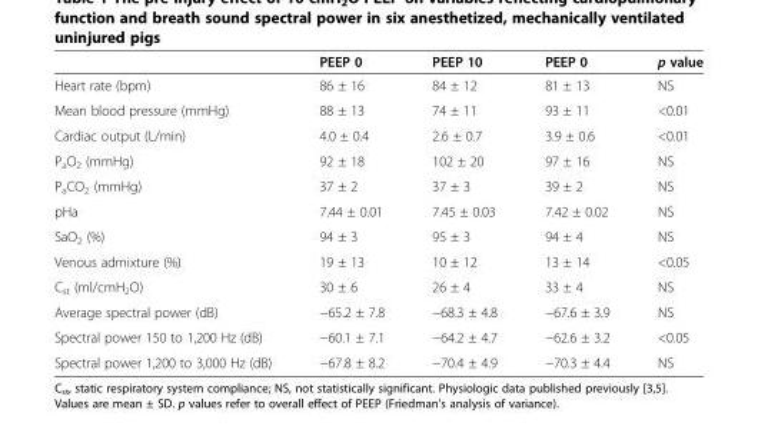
<table><thead><tr><td></td><td>PEEP 0</td><td>PEEP 10</td><td>PEEP 0</td><td>p value</td></tr></thead><tbody><tr><td>Heart rate (bpm)</td><td>86 ± 16</td><td>84 ± 12</td><td>81 ± 13</td><td>NS</td></tr><tr><td>Mean blood pressure (mmHg)</td><td>88 ± 13</td><td>74 ± 11</td><td>93 ± 11</td><td>&lt;0.01</td></tr><tr><td>Cardiac output (L/min)</td><td>4.0 ± 0.4</td><td>2.6 ± 0.7</td><td>3.9 ± 0.6</td><td>&lt;0.01</td></tr><tr><td>P<sub>a</sub>O<sub>2</sub> (mmHg)</td><td>92 ± 18</td><td>102 ± 20</td><td>97 ± 16</td><td>NS</td></tr><tr><td>P<sub>a</sub>CO<sub>2</sub> (mmHg)</td><td>37 ± 2</td><td>37 ± 3</td><td>39 ± 2</td><td>NS</td></tr><tr><td>pHa</td><td>7.44 ± 0.01</td><td>7.45 ± 0.03</td><td>7.42 ± 0.02</td><td>NS</td></tr><tr><td>SaO<sub>2</sub> (%)</td><td>94 ± 3</td><td>95 ± 3</td><td>94 ± 4</td><td>NS</td></tr><tr><td>Venous admixture (%)</td><td>19 ± 13</td><td>10 ± 12</td><td>13 ± 14</td><td>&lt;0.05</td></tr><tr><td>C<sub>st</sub> (ml/cmH<sub>2</sub>O)</td><td>30 ± 6</td><td>26 ± 4</td><td>33 ± 4</td><td>NS</td></tr><tr><td>Average spectral power (dB)</td><td>−65.2 ± 7.8</td><td>−68.3 ± 4.8</td><td>−67.6 ± 3.9</td><td>NS</td></tr><tr><td>Spectral power 150 to 1,200 Hz (dB)</td><td>−60.1 ± 7.1</td><td>−64.2 ± 4.7</td><td>−62.6 ± 3.2</td><td>&lt;0.05</td></tr><tr><td>Spectral power 1,200 to 3,000 Hz (dB)</td><td>−67.8 ± 8.2</td><td>−70.4 ± 4.9</td><td>−70.3 ± 4.4</td><td>NS</td></tr></tbody></table>